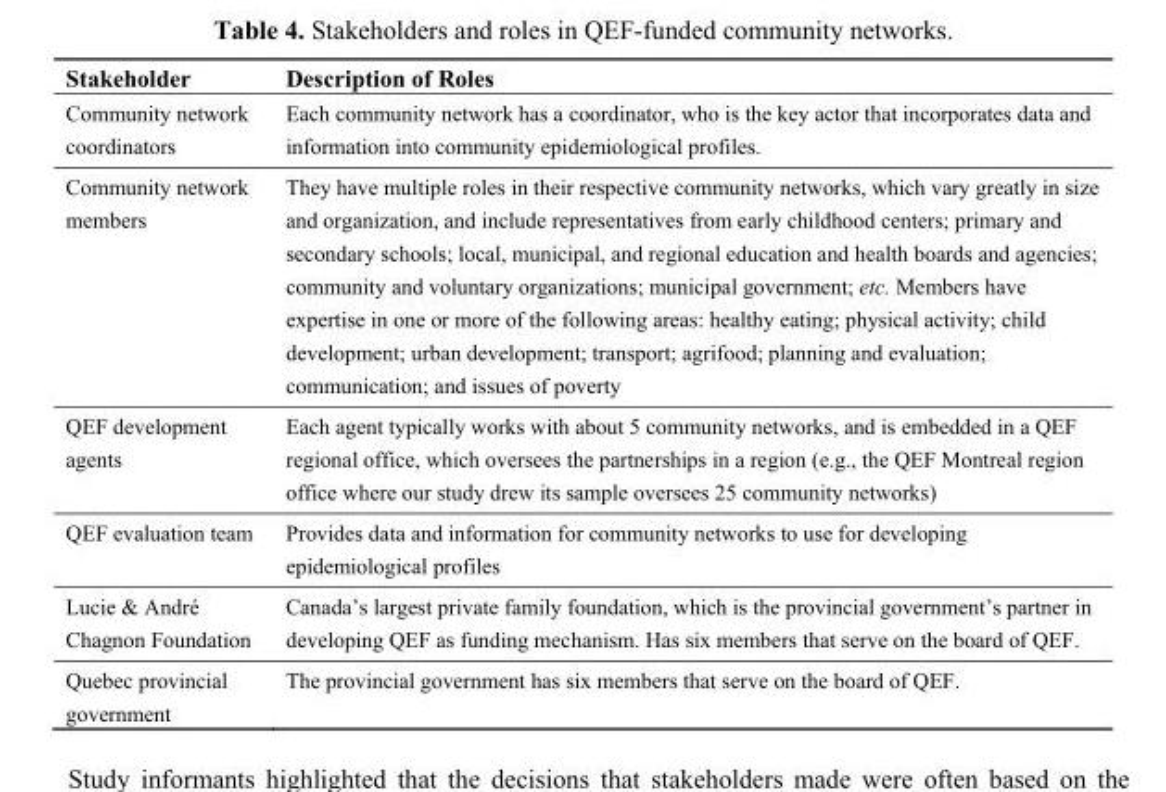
<table><thead><tr><td>Stakeholder</td><td>Description of Roles</td></tr></thead><tbody><tr><td>Community network coordinators</td><td>Each community network has a coordinator, who is the key actor that incorporates data and information into community epidemiological profiles.</td></tr><tr><td>Community network members</td><td>They have multiple roles in their respective community networks, which vary greatly in size and organization, and include representatives from early childhood centers; primary and secondary schools; local, municipal, and regional education and health boards and agencies; community and voluntary organizations; municipal government; etc. Members have expertise in one or more of the following areas: healthy eating; physical activity; child development; urban development; transport; agrifood; planning and evaluation; communication; and issues of poverty</td></tr><tr><td>QEF development agents</td><td>Each agent typically works with about 5 community networks, and is embedded in a QEF regional office, which oversees the partnerships in a region (e.g., the QEF Montreal region office where our study drew its sample oversees 25 community networks)</td></tr><tr><td>QEF evaluation team</td><td>Provides data and information for community networks to use for developing epidemiological profiles</td></tr><tr><td>Lucie &amp; André Chagnon Foundation</td><td>Canada’s largest private family foundation, which is the provincial government’s partner in developing QEF as funding mechanism. Has six members that serve on the board of QEF.</td></tr><tr><td>Quebec provincial government</td><td>The provincial government has six members that serve on the board of QEF.</td></tr></tbody></table>